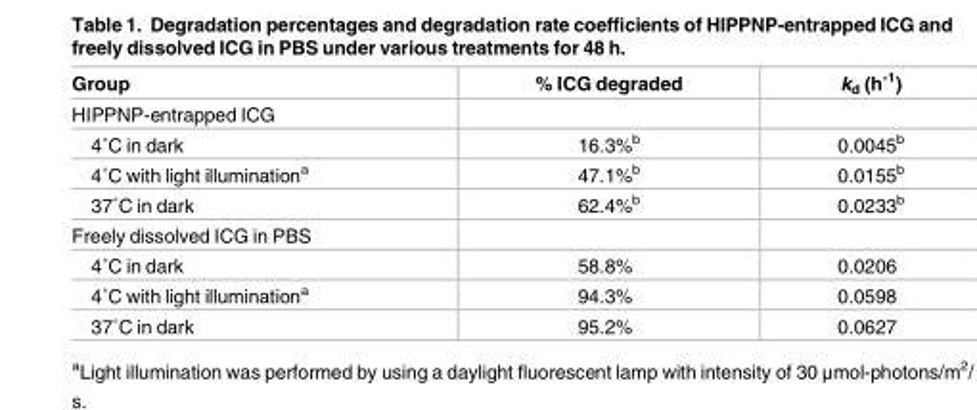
<table><thead><tr><td>Group</td><td>% ICG degraded</td><td>k<sub>d</sub> (h<sup>-1</sup>)</td></tr></thead><tbody><tr><td colspan="3">HIPPNP-entrapped ICG</td></tr><tr><td>4˚C in dark</td><td>16.3%<sup>b</sup></td><td>0.0045<sup>b</sup></td></tr><tr><td>4˚C with light illuminationa</td><td>47.1%<sup>b</sup></td><td>0.0155<sup>b</sup></td></tr><tr><td>37˚C in dark</td><td>62.4%<sup>b</sup></td><td>0.0233<sup>b</sup></td></tr><tr><td colspan="3">Freely dissolved ICG in PBS</td></tr><tr><td>4˚C in dark</td><td>58.8%</td><td>0.0206</td></tr><tr><td>4˚C with light illuminationa</td><td>94.3%</td><td>0.0598</td></tr><tr><td>37˚C in dark</td><td>95.2%</td><td>0.0627</td></tr></tbody></table>